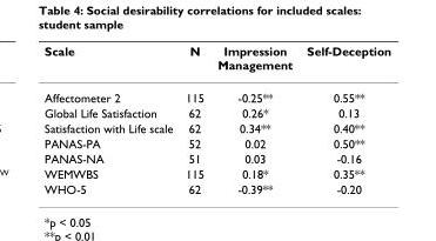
<table><thead><tr><td>Scale</td><td>N</td><td>Impression Management</td><td>Self-Deception</td></tr></thead><tbody><tr><td>Affectometer 2</td><td>115</td><td>-0.25**</td><td>0.55**</td></tr><tr><td>Global Life Satisfaction</td><td>62</td><td>0.26*</td><td>0.13</td></tr><tr><td>Satisfaction with Life scale</td><td>62</td><td>0.34**</td><td>0.40**</td></tr><tr><td>PANAS-PA</td><td>52</td><td>0.02</td><td>0.50**</td></tr><tr><td>PANAS-NA</td><td>51</td><td>0.03</td><td>-0.16</td></tr><tr><td>WEMWBS</td><td>115</td><td>0.18*</td><td>0.35**</td></tr><tr><td>WHO-5</td><td>62</td><td>-0.39**</td><td>-0.20</td></tr></tbody></table>